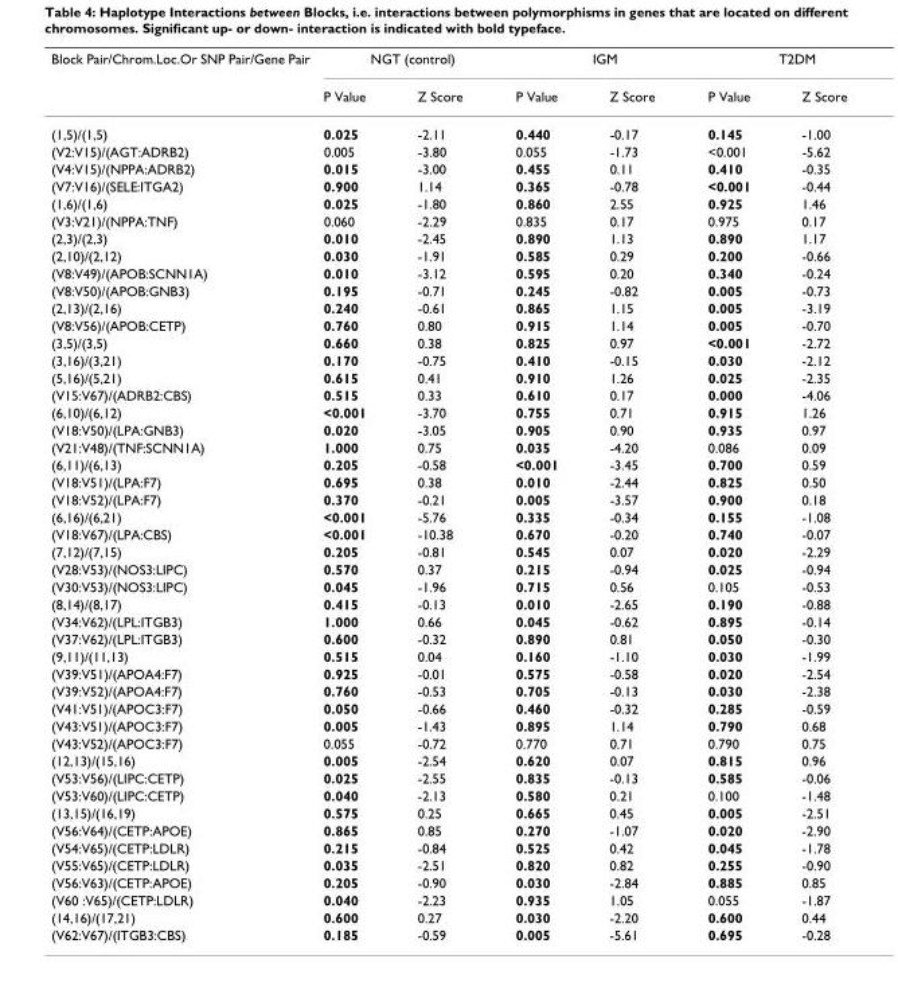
<table><thead><tr><td rowspan="2">Block Pair/Chrom.Loc.Or SNP Pair/Gene Pair</td><td colspan="2">NGT (control)</td><td colspan="2">IGM</td><td colspan="2">T2DM</td></tr><tr><td>P Value</td><td>Z Score</td><td>P Value</td><td>Z Score</td><td>P Value</td><td>Z Score</td></tr></thead><tbody><tr><td>(1,5)/(1,5)</td><td>0.025</td><td>-2.11</td><td>0.440</td><td>-0.17</td><td>0.145</td><td>-1.00</td></tr><tr><td>(V2:V15)/(AGT:ADRB2)</td><td>0.005</td><td>-3.80</td><td>0.055</td><td>-1.73</td><td>&lt;0.001</td><td>-5.62</td></tr><tr><td>(V4:V15)/(NPPA:ADRB2)</td><td>0.015</td><td>-3.00</td><td>0.455</td><td>0.11</td><td>0.410</td><td>-0.35</td></tr><tr><td>(V7:V16)/(SELE:ITGA2)</td><td>0.900</td><td>1.14</td><td>0.365</td><td>-0.78</td><td>&lt;0.001</td><td>-0.44</td></tr><tr><td>(1,6)/(1,6)</td><td>0.025</td><td>-1.80</td><td>0.860</td><td>2.55</td><td>0.925</td><td>1.46</td></tr><tr><td>(V3:V21)/(NPPA:TNF)</td><td>0.060</td><td>-2.29</td><td>0.835</td><td>0.17</td><td>0.975</td><td>0.17</td></tr><tr><td>(2,3)/(2,3)</td><td>0.010</td><td>-2.45</td><td>0.890</td><td>1.13</td><td>0.890</td><td>1.17</td></tr><tr><td>(2,10)/(2,12)</td><td>0.030</td><td>-1.91</td><td>0.585</td><td>0.29</td><td>0.200</td><td>-0.66</td></tr><tr><td>(V8:V49)/(APOB:SCNN1A)</td><td>0.010</td><td>-3.12</td><td>0.595</td><td>0.20</td><td>0.340</td><td>-0.24</td></tr><tr><td>(V8:V50)/(APOB:GNB3)</td><td>0.195</td><td>-0.71</td><td>0.245</td><td>-0.82</td><td>0.005</td><td>-0.73</td></tr><tr><td>(2,13)/(2,16)</td><td>0.240</td><td>-0.61</td><td>0.865</td><td>1.15</td><td>0.005</td><td>-3.19</td></tr><tr><td>(V8:V56)/(APOB:CETP)</td><td>0.760</td><td>0.80</td><td>0.915</td><td>1.14</td><td>0.005</td><td>-0.70</td></tr><tr><td>(3,5)/(3,5)</td><td>0.660</td><td>0.38</td><td>0.825</td><td>0.97</td><td>&lt;0.001</td><td>-2.72</td></tr><tr><td>(3,16)/(3,21)</td><td>0.170</td><td>-0.75</td><td>0.410</td><td>-0.15</td><td>0.030</td><td>-2.12</td></tr><tr><td>(5,16)/(5,21)</td><td>0.615</td><td>0.41</td><td>0.910</td><td>1.26</td><td>0.025</td><td>-2.35</td></tr><tr><td>(V15:V67)/(ADRB2:CBS)</td><td>0.515</td><td>0.33</td><td>0.610</td><td>0.17</td><td>0.000</td><td>-4.06</td></tr><tr><td>(6,10)/(6,12)</td><td>&lt;0.001</td><td>-3.70</td><td>0.755</td><td>0.71</td><td>0.915</td><td>1.26</td></tr><tr><td>(V18:V50)/(LPA:GNB3)</td><td>0.020</td><td>-3.05</td><td>0.905</td><td>0.90</td><td>0.935</td><td>0.97</td></tr><tr><td>(V21:V48)/(TNF:SCNN1A)</td><td>1.000</td><td>0.75</td><td>0.035</td><td>-4.20</td><td>0.086</td><td>0.09</td></tr><tr><td>(6,11)/(6,13)</td><td>0.205</td><td>-0.58</td><td>&lt;0.001</td><td>-3.45</td><td>0.700</td><td>0.59</td></tr><tr><td>(V18:V51)/(LPA:F7)</td><td>0.695</td><td>0.38</td><td>0.010</td><td>-2.44</td><td>0.825</td><td>0.50</td></tr><tr><td>(V18:V52)/(LPA:F7)</td><td>0.370</td><td>-0.21</td><td>0.005</td><td>-3.57</td><td>0.900</td><td>0.18</td></tr><tr><td>(6,16)/(6,21)</td><td>&lt;0.001</td><td>-5.76</td><td>0.335</td><td>-0.34</td><td>0.155</td><td>-1.08</td></tr><tr><td>(V18:V67)/(LPA:CBS)</td><td>&lt;0.001</td><td>-10.38</td><td>0.670</td><td>-0.20</td><td>0.740</td><td>-0.07</td></tr><tr><td>(7,12)/(7,15)</td><td>0.205</td><td>-0.81</td><td>0.545</td><td>0.07</td><td>0.020</td><td>-2.29</td></tr><tr><td>(V28:V53)/(NOS3:LIPC)</td><td>0.570</td><td>0.37</td><td>0.215</td><td>-0.94</td><td>0.025</td><td>-0.94</td></tr><tr><td>(V30:V53)/(NOS3:LIPC)</td><td>0.045</td><td>-1.96</td><td>0.715</td><td>0.56</td><td>0.105</td><td>-0.53</td></tr><tr><td>(8,14)/(8,17)</td><td>0.415</td><td>-0.13</td><td>0.010</td><td>-2.65</td><td>0.190</td><td>-0.88</td></tr><tr><td>(V34:V62)/(LPL:ITGB3)</td><td>1.000</td><td>0.66</td><td>0.045</td><td>-0.62</td><td>0.895</td><td>-0.14</td></tr><tr><td>(V37:V62)/(LPL:ITGB3)</td><td>0.600</td><td>-0.32</td><td>0.890</td><td>0.81</td><td>0.050</td><td>-0.30</td></tr><tr><td>(9,11)/(11,13)</td><td>0.515</td><td>0.04</td><td>0.160</td><td>-1.10</td><td>0.030</td><td>-1.99</td></tr><tr><td>(V39:V51)/(APOA4:F7)</td><td>0.925</td><td>-0.01</td><td>0.575</td><td>-0.58</td><td>0.020</td><td>-2.54</td></tr><tr><td>(V39:V52)/(APOA4:F7)</td><td>0.760</td><td>-0.53</td><td>0.705</td><td>-0.13</td><td>0.030</td><td>-2.38</td></tr><tr><td>(V41:V51)/(APOC3:F7)</td><td>0.050</td><td>-0.66</td><td>0.460</td><td>-0.32</td><td>0.285</td><td>-0.59</td></tr><tr><td>(V43:V51)/(APOC3:F7)</td><td>0.005</td><td>-1.43</td><td>0.895</td><td>1.14</td><td>0.790</td><td>0.68</td></tr><tr><td>(V43:V52)/(APOC3:F7)</td><td>0.055</td><td>-0.72</td><td>0.770</td><td>0.71</td><td>0.790</td><td>0.75</td></tr><tr><td>(12,13)/(15,16)</td><td>0.005</td><td>-2.54</td><td>0.620</td><td>0.07</td><td>0.815</td><td>0.96</td></tr><tr><td>(V53:V56)/(LIPC:CETP)</td><td>0.025</td><td>-2.55</td><td>0.835</td><td>-0.13</td><td>0.585</td><td>-0.06</td></tr><tr><td>(V53:V60)/(LIPC:CETP)</td><td>0.040</td><td>-2.13</td><td>0.580</td><td>0.21</td><td>0.100</td><td>-1.48</td></tr><tr><td>(13,15)/(16,19)</td><td>0.575</td><td>0.25</td><td>0.665</td><td>0.45</td><td>0.005</td><td>-2.51</td></tr><tr><td>(V56:V64)/(CETP:APOE)</td><td>0.865</td><td>0.85</td><td>0.270</td><td>-1.07</td><td>0.020</td><td>-2.90</td></tr><tr><td>(V54:V65)/(CETP:LDLR)</td><td>0.215</td><td>-0.84</td><td>0.525</td><td>0.42</td><td>0.045</td><td>-1.78</td></tr><tr><td>(V55:V65)/(CETP:LDLR)</td><td>0.035</td><td>-2.51</td><td>0.820</td><td>0.82</td><td>0.255</td><td>-0.90</td></tr><tr><td>(V56:V63)/(CETP:APOE)</td><td>0.205</td><td>-0.90</td><td>0.030</td><td>-2.84</td><td>0.885</td><td>0.85</td></tr><tr><td>(V60 :V65)/(CETP:LDLR)</td><td>0.040</td><td>-2.23</td><td>0.935</td><td>1.05</td><td>0.055</td><td>-1.87</td></tr><tr><td>(14,16)/(17,21)</td><td>0.600</td><td>0.27</td><td>0.030</td><td>-2.20</td><td>0.600</td><td>0.44</td></tr><tr><td>(V62:V67)/(ITGB3:CBS)</td><td>0.185</td><td>-0.59</td><td>0.005</td><td>-5.61</td><td>0.695</td><td>-0.28</td></tr></tbody></table>